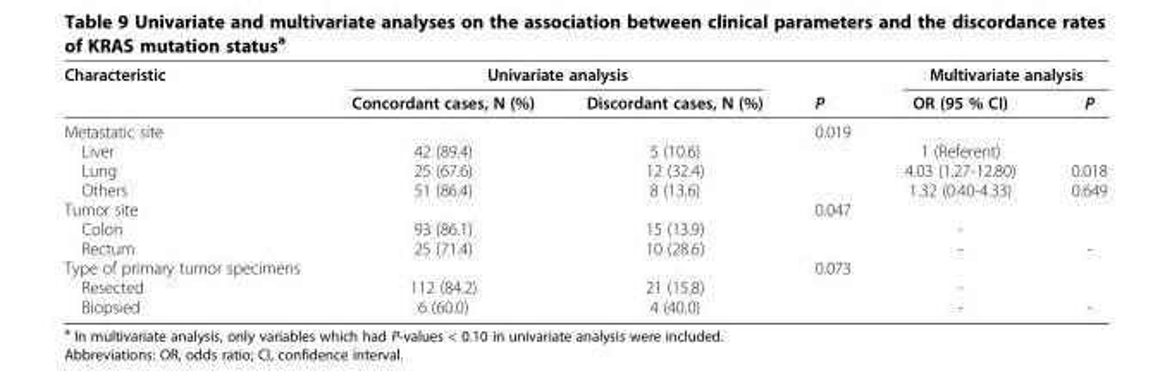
<table><thead><tr><td rowspan="2">Characteristic</td><td colspan="2">Univariate analysis</td><td rowspan="2">P</td><td colspan="2">Multivariate analysis</td></tr><tr><td>Concordant cases, N (%)</td><td>Discordant cases, N (%)</td><td>OR (95 % CI)</td><td>P</td></tr></thead><tbody><tr><td>Metastatic site</td><td></td><td></td><td>0.019</td><td></td><td></td></tr><tr><td>Liver</td><td>42 (89.4)</td><td>5 (10.6)</td><td></td><td>1 (Referent)</td><td></td></tr><tr><td>Lung</td><td>25 (67.6)</td><td>12 (32.4)</td><td></td><td>4.03 (1.27-12.80)</td><td>0.018</td></tr><tr><td>Others</td><td>51 (86.4)</td><td>8 (13.6)</td><td></td><td>1.32 (0.40-4.33)</td><td>0.649</td></tr><tr><td>Tumor site</td><td></td><td></td><td>0.047</td><td></td><td></td></tr><tr><td>Colon</td><td>93 (86.1)</td><td>15 (13.9)</td><td></td><td>-</td><td></td></tr><tr><td>Rectum</td><td>25 (71.4)</td><td>10 (28.6)</td><td></td><td>-</td><td>-</td></tr><tr><td>Type of primary tumor specimens</td><td></td><td></td><td>0.073</td><td></td><td></td></tr><tr><td>Resected</td><td>112 (84.2)</td><td>21 (15.8)</td><td></td><td>-</td><td></td></tr><tr><td>Biopsied</td><td>6 (60.0)</td><td>4 (40.0)</td><td></td><td>-</td><td>-</td></tr></tbody></table>